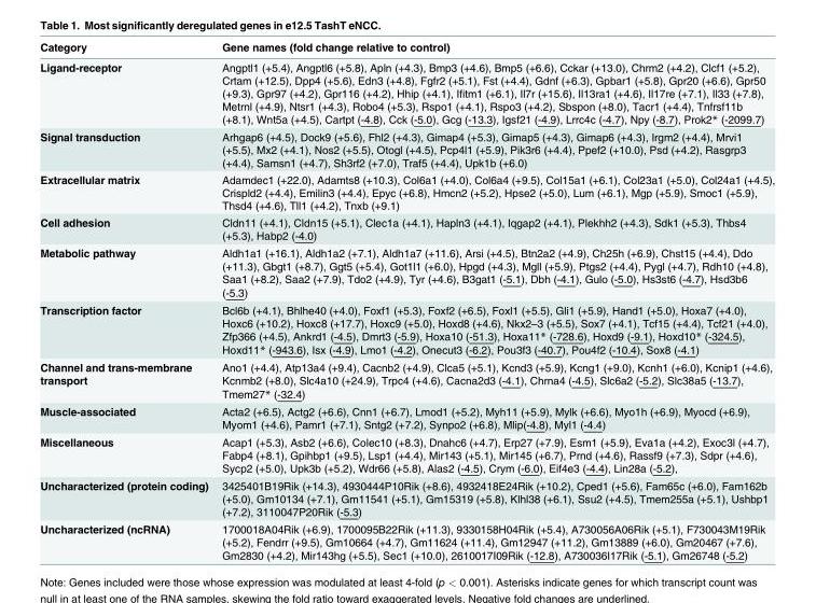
<table><thead><tr><td>Category</td><td>Gene names (fold change relative to control)</td></tr></thead><tbody><tr><td>Ligand-receptor</td><td>Angptl1 (+5.4), Angptl6 (+5.8), Apln (+4.3), Bmp3 (+4.6), Bmp5 (+6.6), Cckar (+13.0), Chrm2 (+4.2), Clcf1 (+5.2), Crtam (+12.5), Dpp4 (+5.6), Edn3 (+4.8), Fgfr2 (+5.1), Fst (+4.4), Gdnf (+6.3), Gpbar1 (+5.8), Gpr20 (+6.6), Gpr50 (+9.3), Gpr97 (+4.2), Gpr116 (+4.2), Hhip (+4.1), Ifitm1 (+6.1), Il7r (+15.6), Il13ra1 (+4.6), Il17re (+7.1), Il33 (+7.8), Metrnl (+4.9), Ntsr1 (+4.3), Robo4 (+5.3), Rspo1 (+4.1), Rspo3 (+4.2), Sbspon (+8.0), Tacr1 (+4.4), Tnfrsf11b (+8.1), Wnt5a (+4.5), Cartpt (-4.8), Cck (-5.0), Gcg (-13.3), Igsf21 (-4.9), Lrrc4c (-4.7), Npy (-8.7), Prok2* (-2099.7)</td></tr><tr><td>Signal transduction</td><td>Arhgap6 (+4.5), Dock9 (+5.6), Fhl2 (+4.3), Gimap4 (+5.3), Gimap5 (+4.3), Gimap6 (+4.3), Irgm2 (+4.4), Mrvi1 (+5.5), Mx2 (+4.1), Nos2 (+5.5), Otogl (+4.5), Pcp4l1 (+5.9), Pik3r6 (+4.4), Ppef2 (+10.0), Psd (+4.2), Rasgrp3 (+4.4), Samsn1 (+4.7), Sh3rf2 (+7.0), Traf5 (+4.4), Upk1b (+6.0)</td></tr><tr><td>Extracellular matrix</td><td>Adamdec1 (+22.0), Adamts8 (+10.3), Col6a1 (+4.0), Col6a4 (+9.5), Col15a1 (+6.1), Col23a1 (+5.0), Col24a1 (+4.5), Crispld2 (+4.4), Emilin3 (+4.4), Epyc (+6.8), Hmcn2 (+5.2), Hpse2 (+5.0), Lum (+6.1), Mgp (+5.9), Smoc1 (+5.9), Thsd4 (+4.6), Tll1 (+4.2), Tnxb (+9.1)</td></tr><tr><td>Cell adhesion</td><td>Cldn11 (+4.1), Cldn15 (+5.1), Clec1a (+4.1), Hapln3 (+4.1), Iqgap2 (+4.1), Plekhh2 (+4.3), Sdk1 (+5.3), Thbs4 (+5.3), Habp2 (-4.0)</td></tr><tr><td>Metabolic pathway</td><td>Aldh1a1 (+16.1), Aldh1a2 (+7.1), Aldh1a7 (+11.6), Arsi (+4.5), Btn2a2 (+4.9), Ch25h (+6.9), Chst15 (+4.4), Ddo (+11.3), Gbgt1 (+8.7), Ggt5 (+5.4), Got1l1 (+6.0), Hpgd (+4.3), Mgll (+5.9), Ptgs2 (+4.4), Pygl (+4.7), Rdh10 (+4.8), Saa1 (+8.2), Saa2 (+7.9), Tdo2 (+4.9), Tyr (+4.6), B3gat1 (-5.1), Dbh (-4.1), Gulo (-5.0), Hs3st6 (-4.7), Hsd3b6 (-5.3)</td></tr><tr><td>Transcription factor</td><td>Bcl6b (+4.1), Bhlhe40 (+4.0), Foxf1 (+5.3), Foxf2 (+6.5), Foxl1 (+5.5), Gli1 (+5.9), Hand1 (+5.0), Hoxa7 (+4.0), Hoxc6 (+10.2), Hoxc8 (+17.7), Hoxc9 (+5.0), Hoxd8 (+4.6), Nkx2–3 (+5.5), Sox7 (+4.1), Tcf15 (+4.4), Tcf21 (+4.0), Zfp366 (+4.5), Ankrd1 (-4.5), Dmrt3 (-5.9), Hoxa10 (-51.3), Hoxa11* (-728.6), Hoxd9 (-9.1), Hoxd10* (-324.5), Hoxd11* (-943.6), Isx (-4.9), Lmo1 (-4.2), Onecut3 (-6.2), Pou3f3 (-40.7), Pou4f2 (-10.4), Sox8 (-4.1)</td></tr><tr><td>Channel and trans-membrane transport</td><td>Ano1 (+4.4), Atp13a4 (+9.4), Cacnb2 (+4.9), Clca5 (+5.1), Kcnd3 (+5.9), Kcng1 (+9.0), Kcnh1 (+6.0), Kcnip1 (+4.6), Kcnmb2 (+8.0), Slc4a10 (+24.9), Trpc4 (+4.6), Cacna2d3 (-4.1), Chrna4 (-4.5), Slc6a2 (-5.2), Slc38a5 (-13.7), Tmem27* (-32.4)</td></tr><tr><td>Muscle-associated</td><td>Acta2 (+6.5), Actg2 (+6.6), Cnn1 (+6.7), Lmod1 (+5.2), Myh11 (+5.9), Mylk (+6.6), Myo1h (+6.9), Myocd (+6.9), Myom1 (+4.6), Pamr1 (+7.1), Sntg2 (+7.2), Synpo2 (+6.8), Mlip(-4.8), Myl1 (-4.4)</td></tr><tr><td>Miscellaneous</td><td>Acap1 (+5.3), Asb2 (+6.6), Colec10 (+8.3), Dnahc6 (+4.7), Erp27 (+7.9), Esm1 (+5.9), Eva1a (+4.2), Exoc3l (+4.7), Fabp4 (+8.1), Gpihbp1 (+9.5), Lsp1 (+4.4), Mir143 (+5.1), Mir145 (+6.7), Prnd (+4.6), Rassf9 (+7.3), Sdpr (+4.6), Sycp2 (+5.0), Upk3b (+5.2), Wdr66 (+5.8), Alas2 (-4.5), Crym (-6.0), Eif4e3 (-4.4), Lin28a (-5.2),</td></tr><tr><td>Uncharacterized (protein coding)</td><td>3425401B19Rik (+14.3), 4930444P10Rik (+8.6), 4932418E24Rik (+10.2), Cped1 (+5.6), Fam65c (+6.0), Fam162b (+5.0), Gm10134 (+7.1), Gm11541 (+5.1), Gm15319 (+5.8), Klhl38 (+6.1), Ssu2 (+4.5), Tmem255a (+5.1), Ushbp1 (+7.2), 3110047P20Rik (-5.3)</td></tr><tr><td>Uncharacterized (ncRNA)</td><td>1700018A04Rik (+6.9), 1700095B22Rik (+11.3), 9330158H04Rik (+5.4), A730056A06Rik (+5.1), F730043M19Rik (+5.2), Fendrr (+9.5), Gm10664 (+4.7), Gm11624 (+11.4), Gm12947 (+11.2), Gm13889 (+6.0), Gm20467 (+7.6), Gm2830 (+4.2), Mir143hg (+5.5), Sec1 (+10.0), 2610017I09Rik (-12.8), A730036I17Rik (-5.1), Gm26748 (-5.2)</td></tr></tbody></table>